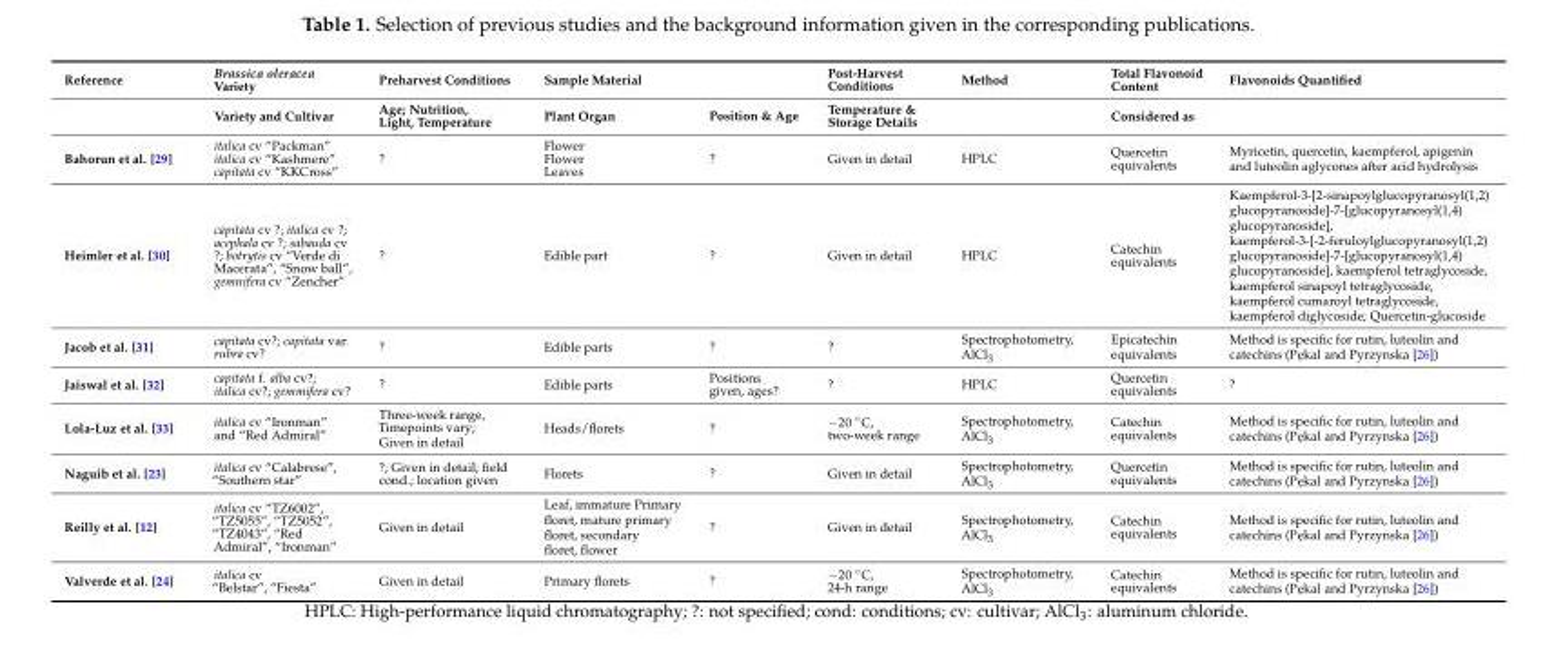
<table><thead><tr><td rowspan="2">Reference</td><td rowspan="2">Brassica oleracea Variety Variety and Cultivar</td><td rowspan="2">Preharvest Conditions Age; Nutrition, Light, Temperature</td><td colspan="2">Sample Material</td><td rowspan="2">Post-Harvest Conditions Temperature &amp; Storage Details</td><td rowspan="2">Method</td><td rowspan="2">Total Flavonoid Content Considered as</td><td rowspan="2">Flavonoids Quantified</td></tr><tr><td>Plant Organ</td><td>Position &amp; Age</td></tr></thead><tbody><tr><td>Bahorun et al. [29]</td><td>italica cv “Packman” italica cv “Kashmere” capitata cv “KKCross”</td><td>?</td><td>Flower Flower Leaves</td><td>?</td><td>Given in detail</td><td>HPLC</td><td>Quercetin equivalents</td><td>Myricetin, quercetin, kaempferol, apigenin and luteolin aglycones after acid hydrolysis</td></tr><tr><td>Heimler et al. [30]</td><td>capitata cv ?; italica cv ?; acephala cv ?; sabauda cv ?; botrytis cv “Verde di Macerata”, “Snow ball”, gemnifera cv “Zencher”</td><td>?</td><td>Edible part</td><td>?</td><td>Given in detail</td><td>HPLC</td><td>Catechin equivalents</td><td>Kaempferol-3-[2-sinapoylglucopyranosyl(1,2) glucopyranoside]-7-[glucopyranosyl(1,4) glucopyranoside], kaempferol-3-[-2-feruloylglucopyranosyl(1,2) glucopyranoside]-7-[glucopyranosyl(1,4) glucopyranoside], kaempferol tetraglycoside, kaempferol sinapoyl tetraglycoside, kaempferol cumaroyl tetraglycoside, kaempferol diglycoside; Quercetin-glucoside</td></tr><tr><td>Jacob et al. [31]</td><td>capitata cv?; capitata var. rubra cv?</td><td>?</td><td>Edible parts</td><td>?</td><td>?</td><td>Spectrophotometry, AlCl<sub>3</sub></td><td>Epicatechin equivalents</td><td>Method is specific for rutin, luteolin and catechins (P˛ekal and Pyrzynska [26])</td></tr><tr><td>Jaiswal et al. [32]</td><td>capitata f. alba cv?; italica cv?; gemmifera cv?</td><td>?</td><td>Edible parts</td><td>Positions given, ages?</td><td>?</td><td>HPLC</td><td>Quercetin equivalents</td><td>?</td></tr><tr><td>Lola-Luz et al. [33]</td><td>italica cv “Ironman” and “Red Admiral”</td><td>Three-week range, Timepoints vary; Given in detail</td><td>Heads/florets</td><td>?</td><td>−20 ◦C, two-week range</td><td>Spectrophotometry, AlCl<sub>3</sub></td><td>Catechin equivalents</td><td>Method is specific for rutin, luteolin and catechins (P˛ekal and Pyrzynska [26])</td></tr><tr><td>Naguib et al. [23]</td><td>italica cv “Calabrese”, “Southern star”</td><td>?; Given in detail; field cond.; location given</td><td>Florets</td><td>?</td><td>Given in detail</td><td>Spectrophotometry, AlCl<sub>3</sub></td><td>Quercetin equivalents</td><td>Method is specific for rutin, luteolin and catechins (P˛ekal and Pyrzynska [26])</td></tr><tr><td>Reilly et al. [12]</td><td>italica cv “TZ6002”, “TZ5055”, “TZ5052”, “TZ4043”, “Red Admiral”, “Ironman”</td><td>Given in detail</td><td>Leaf, immature Primary floret, mature primary floret, secondary floret, flower</td><td>?</td><td>Given in detail</td><td>Spectrophotometry, AlCl<sub>3</sub></td><td>Catechin equivalents</td><td>Method is specific for rutin, luteolin and catechins (P˛ekal and Pyrzynska [26])</td></tr><tr><td>Valverde et al. [24]</td><td>italica cv “Belstar”, “Fiesta”</td><td>Given in detail</td><td>Primary florets</td><td>?</td><td>−20 ◦C, 24-h range</td><td>Spectrophotometry, AlCl<sub>3</sub></td><td>Catechin equivalents</td><td>Method is specific for rutin, luteolin and catechins (P˛ekal and Pyrzynska [26])</td></tr></tbody></table>